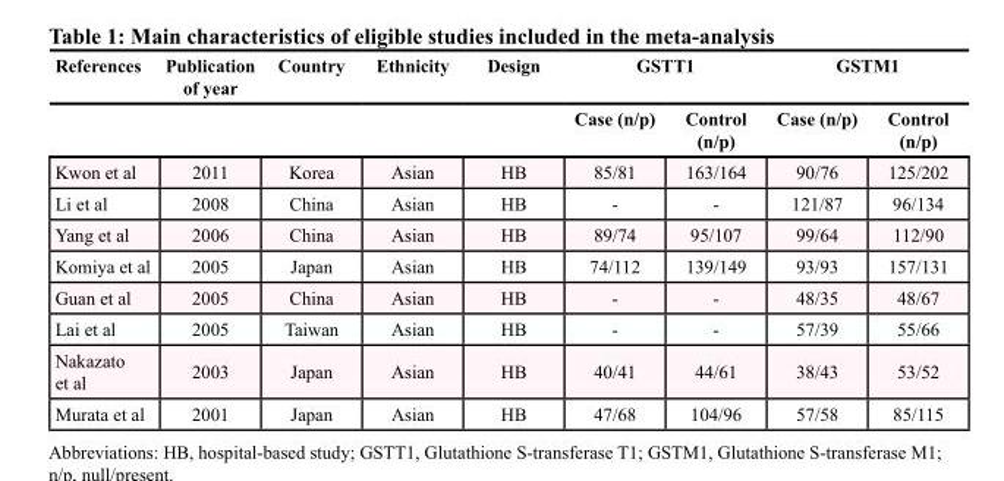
<table><thead><tr><td rowspan="2">References</td><td rowspan="2">Publication of year</td><td rowspan="2">Country</td><td rowspan="2">Ethnicity</td><td rowspan="2">Design</td><td colspan="2">GSTT1</td><td colspan="2">GSTM1</td></tr><tr><td>Case (n/p)</td><td>Control (n/p)</td><td>Case (n/p)</td><td>Control (n/p)</td></tr></thead><tbody><tr><td>Kwon et al</td><td>2011</td><td>Korea</td><td>Asian</td><td>HB</td><td>85/81</td><td>163/164</td><td>90/76</td><td>125/202</td></tr><tr><td>Li et al</td><td>2008</td><td>China</td><td>Asian</td><td>HB</td><td>-</td><td>-</td><td>121/87</td><td>96/134</td></tr><tr><td>Yang et al</td><td>2006</td><td>China</td><td>Asian</td><td>HB</td><td>89/74</td><td>95/107</td><td>99/64</td><td>112/90</td></tr><tr><td>Komiya et al</td><td>2005</td><td>Japan</td><td>Asian</td><td>HB</td><td>74/112</td><td>139/149</td><td>93/93</td><td>157/131</td></tr><tr><td>Guan et al</td><td>2005</td><td>China</td><td>Asian</td><td>HB</td><td>-</td><td>-</td><td>48/35</td><td>48/67</td></tr><tr><td>Lai et al</td><td>2005</td><td>Taiwan</td><td>Asian</td><td>HB</td><td>-</td><td>-</td><td>57/39</td><td>55/66</td></tr><tr><td>Nakazato et al</td><td>2003</td><td>Japan</td><td>Asian</td><td>HB</td><td>40/41</td><td>44/61</td><td>38/43</td><td>53/52</td></tr><tr><td>Murata et al</td><td>2001</td><td>Japan</td><td>Asian</td><td>HB</td><td>47/68</td><td>104/96</td><td>57/58</td><td>85/115</td></tr></tbody></table>